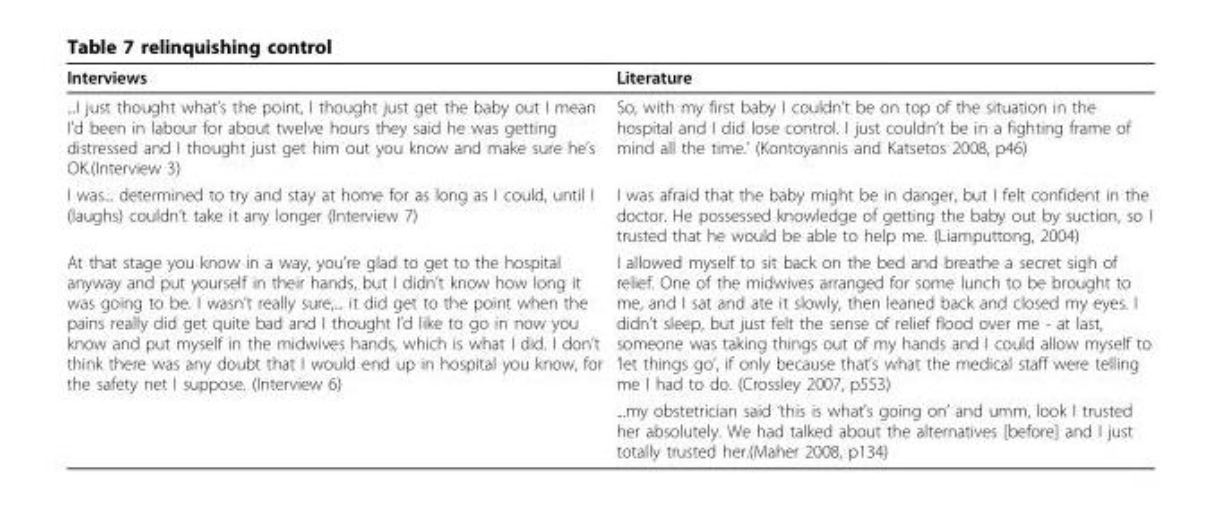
<table><thead><tr><td>Interviews</td><td>Literature</td></tr></thead><tbody><tr><td>...I just thought what’s the point, I thought just get the baby out I mean I’d been in labour for about twelve hours they said he was getting distressed and I thought just get him out you know and make sure he’s OK.(Interview 3)</td><td>So, with my first baby I couldn’t be on top of the situation in the hospital and I did lose control. I just couldn’t be in a fighting frame of mind all the time.’ (Kontoyannis and Katsetos 2008, p46)</td></tr><tr><td>I was... determined to try and stay at home for as long as I could, until I (laughs) couldn’t take it any longer (Interview 7)</td><td>I was afraid that the baby might be in danger, but I felt confident in the doctor. He possessed knowledge of getting the baby out by suction, so I trusted that he would be able to help me. (Liamputtong, 2004)</td></tr><tr><td rowspan="2">At that stage you know in a way, you’re glad to get to the hospital anyway and put yourself in their hands, but I didn’t know how long it was going to be. I wasn’t really sure,... it did get to the point when the pains really did get quite bad and I thought I’d like to go in now you know and put myself in the midwives hands, which is what I did. I don’t think there was any doubt that I would end up in hospital you know, for the safety net I suppose. (Interview 6)</td><td>I allowed myself to sit back on the bed and breathe a secret sigh of relief. One of the midwives arranged for some lunch to be brought to me, and I sat and ate it slowly, then leaned back and closed my eyes. I didn’t sleep, but just felt the sense of relief flood over me - at last, someone was taking things out of my hands and I could allow myself to ‘let things go’, if only because that’s what the medical staff were telling me I had to do. (Crossley 2007, p553)</td></tr><tr><td>...my obstetrician said ‘this is what’s going on’ and umm, look I trusted her absolutely. We had talked about the alternatives [before] and I just totally trusted her.(Maher 2008, p134)</td></tr></tbody></table>